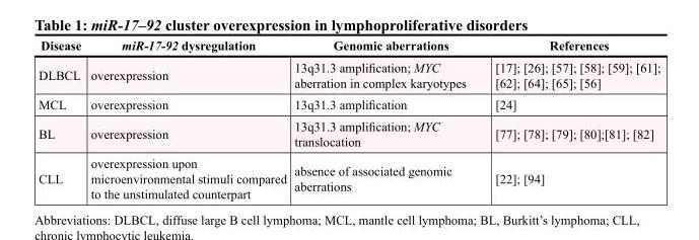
<table><thead><tr><td>Disease</td><td>miR-17-92 dysregulation</td><td>Genomic aberrations</td><td>References</td></tr></thead><tbody><tr><td>DLBCL</td><td>overexpression</td><td>13q31.3 amplification; MYC aberration in complex karyotypes</td><td>[17]; [26]; [57]; [58]; [59]; [61]; [62]; [64]; [65]; [56]</td></tr><tr><td>MCL</td><td>overexpression</td><td>13q31.3 amplification</td><td>[24]</td></tr><tr><td>BL</td><td>overexpression</td><td>13q31.3 amplification; MYC translocation</td><td>[77]; [78]; [79]; [80];[81]; [82]</td></tr><tr><td>CLL</td><td>overexpression upon microenvironmental stimuli compared to the unstimulated counterpart</td><td>absence of associated genomic aberrations</td><td>[22]; [94]</td></tr></tbody></table>